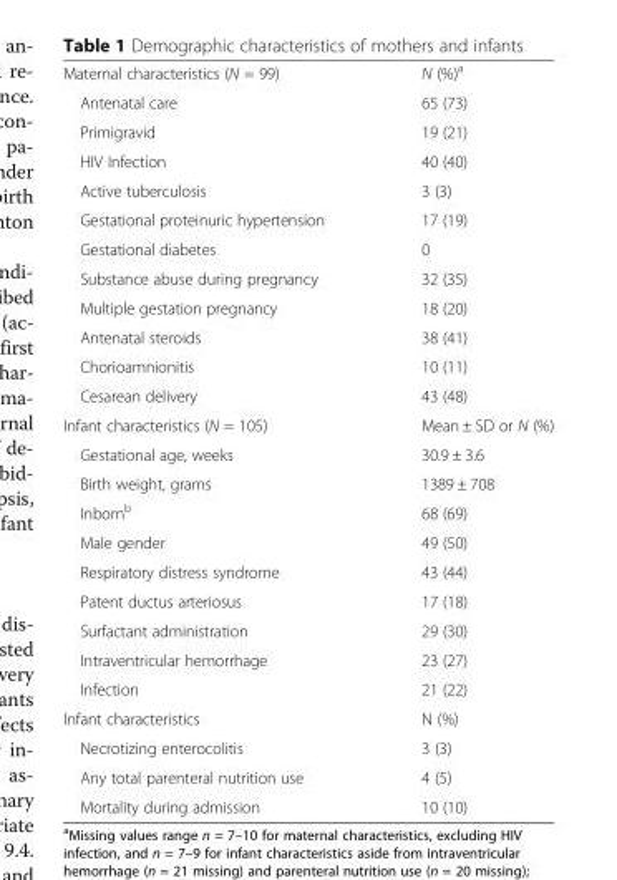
<table><tbody><tr><td>Maternal characteristics (N = 99)</td><td>N (%)<sup>a</sup></td></tr><tr><td>Antenatal care</td><td>65 (73)</td></tr><tr><td>Primigravid</td><td>19 (21)</td></tr><tr><td>HIV Infection</td><td>40 (40)</td></tr><tr><td>Active tuberculosis</td><td>3 (3)</td></tr><tr><td>Gestational proteinuric hypertension</td><td>17 (19)</td></tr><tr><td>Gestational diabetes</td><td>0</td></tr><tr><td>Substance abuse during pregnancy</td><td>32 (35)</td></tr><tr><td>Multiple gestation pregnancy</td><td>18 (20)</td></tr><tr><td>Antenatal steroids</td><td>38 (41)</td></tr><tr><td>Chorioamnionitis</td><td>10 (11)</td></tr><tr><td>Cesarean delivery</td><td>43 (48)</td></tr><tr><td>Infant characteristics (N = 105)</td><td>Mean ± SD or N (%)</td></tr><tr><td>Gestational age, weeks</td><td>30.9 ± 3.6</td></tr><tr><td>Birth weight, grams</td><td>1389 ± 708</td></tr><tr><td>Inborn<sup>b</sup></td><td>68 (69)</td></tr><tr><td>Male gender</td><td>49 (50)</td></tr><tr><td>Respiratory distress syndrome</td><td>43 (44)</td></tr><tr><td>Patent ductus arteriosus</td><td>17 (18)</td></tr><tr><td>Surfactant administration</td><td>29 (30)</td></tr><tr><td>Intraventricular hemorrhage</td><td>23 (27)</td></tr><tr><td>Infection</td><td>21 (22)</td></tr><tr><td>Infant characteristics</td><td>N (%)</td></tr><tr><td>Necrotizing enterocolitis</td><td>3 (3)</td></tr><tr><td>Any total parenteral nutrition use</td><td>4 (5)</td></tr><tr><td>Mortality during admission</td><td>10 (10)</td></tr></tbody></table>